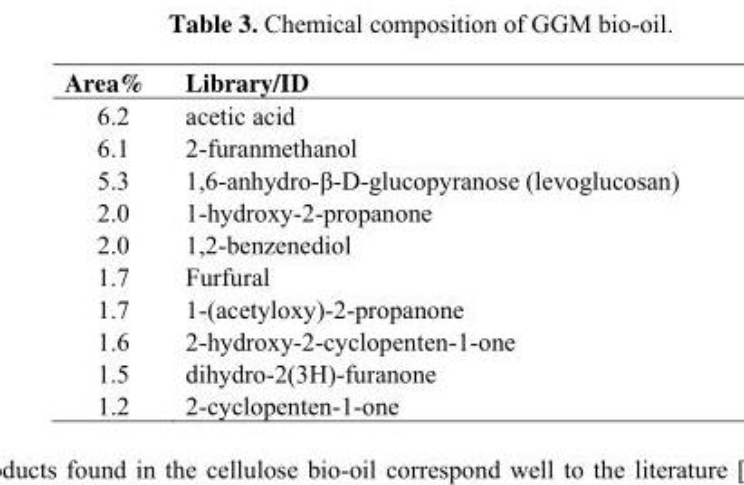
<table><thead><tr><td>Area%</td><td>Library/ID</td></tr></thead><tbody><tr><td>6.2</td><td>acetic acid</td></tr><tr><td>6.1</td><td>2-furanmethanol</td></tr><tr><td>5.3</td><td>1,6-anhydro-β-D-glucopyranose (levoglucosan)</td></tr><tr><td>2.0</td><td>1-hydroxy-2-propanone</td></tr><tr><td>2.0</td><td>1,2-benzenediol</td></tr><tr><td>1.7</td><td>Furfural</td></tr><tr><td>1.7</td><td>1-(acetyloxy)-2-propanone</td></tr><tr><td>1.6</td><td>2-hydroxy-2-cyclopenten-1-one</td></tr><tr><td>1.5</td><td>dihydro-2(3H)-furanone</td></tr><tr><td>1.2</td><td>2-cyclopenten-1-one</td></tr></tbody></table>